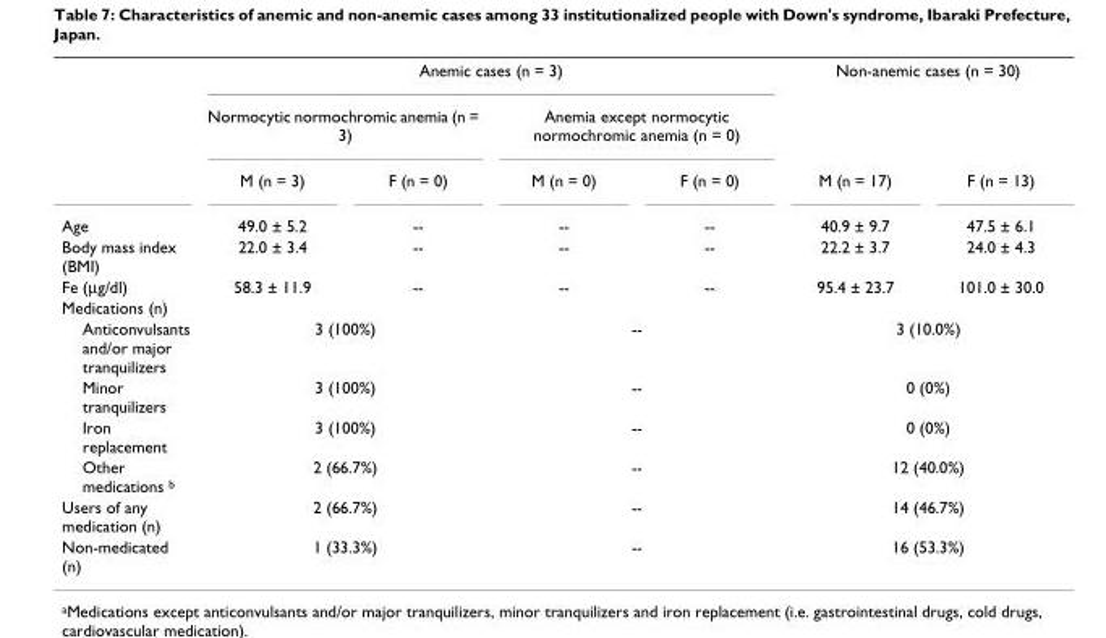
<table><thead><tr><td rowspan="3"></td><td colspan="4">Anemic cases (n = 3)</td><td colspan="2">Non-anemic cases (n = 30)</td></tr><tr><td colspan="2">Normocytic normochromic anemia (n = 3)</td><td colspan="2">Anemia except normocytic normochromic anemia (n = 0)</td><td rowspan="2">M (n = 17)</td><td rowspan="2">F (n = 13)</td></tr><tr><td>M (n = 3)</td><td>F (n = 0)</td><td>M (n = 0)</td><td>F (n = 0)</td></tr></thead><tbody><tr><td>Age</td><td>49.0 ± 5.2</td><td>--</td><td>--</td><td>--</td><td>40.9 ± 9.7</td><td>47.5 ± 6.1</td></tr><tr><td>Body mass index (BMI)</td><td>22.0 ± 3.4</td><td>--</td><td>--</td><td>--</td><td>22.2 ± 3.7</td><td>24.0 ± 4.3</td></tr><tr><td>Fe (μg/dl)</td><td>58.3 ± 11.9</td><td>--</td><td>--</td><td>--</td><td>95.4 ± 23.7</td><td>101.0 ± 30.0</td></tr><tr><td colspan="7">Medications (n)</td></tr><tr><td>Anticonvulsants and/or major tranquilizers</td><td colspan="2">3 (100%)</td><td colspan="2">--</td><td colspan="2">3 (10.0%)</td></tr><tr><td>Minor tranquilizers</td><td colspan="2">3 (100%)</td><td colspan="2">--</td><td colspan="2">0 (0%)</td></tr><tr><td>Iron replacement</td><td colspan="2">3 (100%)</td><td colspan="2">--</td><td colspan="2">0 (0%)</td></tr><tr><td>Other medications b</td><td colspan="2">2 (66.7%)</td><td colspan="2">--</td><td colspan="2">12 (40.0%)</td></tr><tr><td>Users of any medication (n)</td><td colspan="2">2 (66.7%)</td><td colspan="2">--</td><td colspan="2">14 (46.7%)</td></tr><tr><td>Non-medicated (n)</td><td colspan="2">1 (33.3%)</td><td colspan="2">--</td><td colspan="2">16 (53.3%)</td></tr></tbody></table>